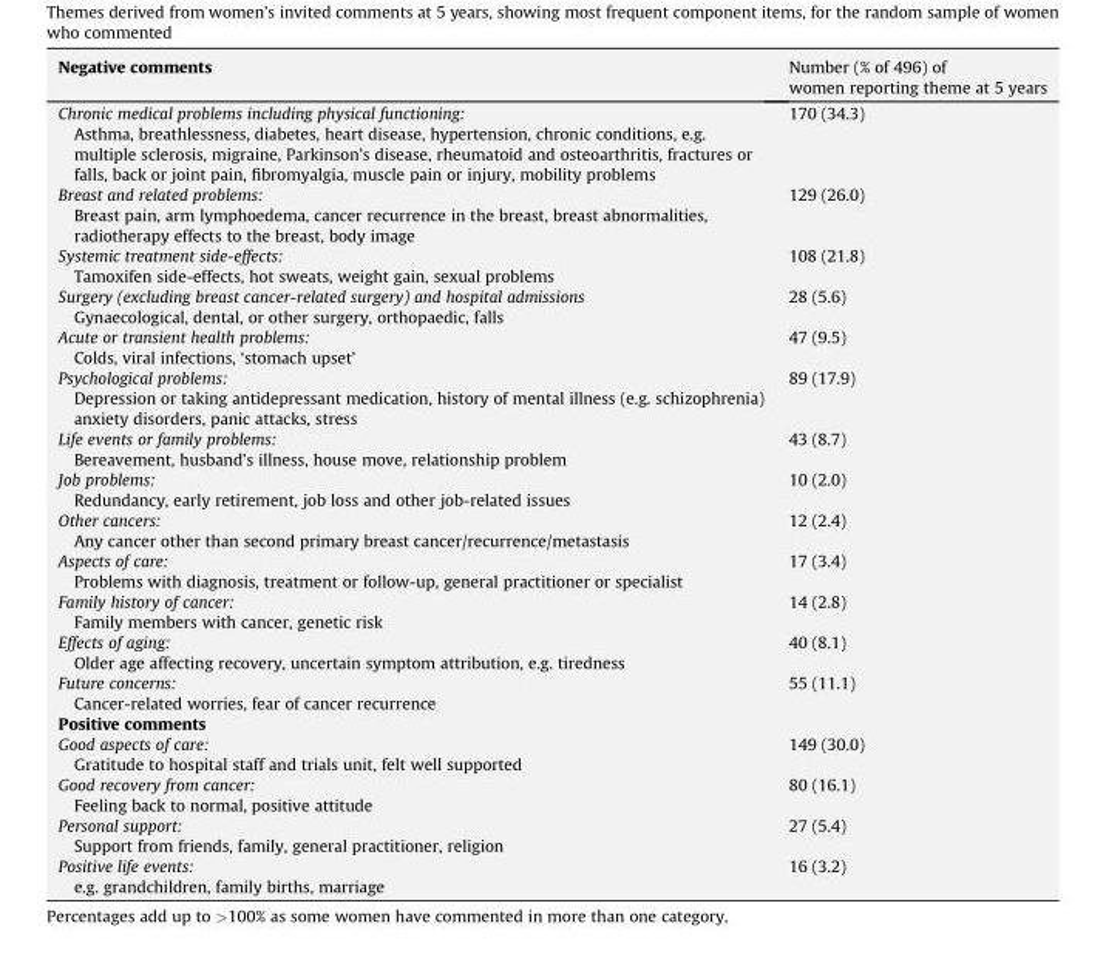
<table><thead><tr><td>Negative comments</td><td>Number (% of 496) of women reporting theme at 5 years</td></tr></thead><tbody><tr><td>Chronic medical problems including physical functioning: Asthma, breathlessness, diabetes, heart disease, hypertension, chronic conditions, e.g. multiple sclerosis, migraine, Parkinson’s disease, rheumatoid and osteoarthritis, fractures or falls, back or joint pain, fibromyalgia, muscle pain or injury, mobility problems</td><td>170 (34.3)</td></tr><tr><td>Breast and related problems: Breast pain, arm lymphoedema, cancer recurrence in the breast, breast abnormalities, radiotherapy effects to the breast, body image</td><td>129 (26.0)</td></tr><tr><td>Systemic treatment side-effects: Tamoxifen side-effects, hot sweats, weight gain, sexual problems</td><td>108 (21.8)</td></tr><tr><td>Surgery (excluding breast cancer-related surgery) and hospital admissions Gynaecological, dental, or other surgery, orthopaedic, falls</td><td>28 (5.6)</td></tr><tr><td>Acute or transient health problems: Colds, viral infections, ‘stomach upset’</td><td>47 (9.5)</td></tr><tr><td>Psychological problems: Depression or taking antidepressant medication, history of mental illness (e.g. schizophrenia) anxiety disorders, panic attacks, stress</td><td>89 (17.9)</td></tr><tr><td>Life events or family problems: Bereavement, husband’s illness, house move, relationship problem</td><td>43 (8.7)</td></tr><tr><td>Job problems: Redundancy, early retirement, job loss and other job-related issues</td><td>10 (2.0)</td></tr><tr><td>Other cancers: Any cancer other than second primary breast cancer/recurrence/metastasis</td><td>12 (2.4)</td></tr><tr><td>Aspects of care: Problems with diagnosis, treatment or follow-up, general practitioner or specialist</td><td>17 (3.4)</td></tr><tr><td>Family history of cancer: Family members with cancer, genetic risk</td><td>14 (2.8)</td></tr><tr><td>Effects of aging: Older age affecting recovery, uncertain symptom attribution, e.g. tiredness</td><td>40 (8.1)</td></tr><tr><td>Future concerns: Cancer-related worries, fear of cancer recurrence</td><td>55 (11.1)</td></tr><tr><td colspan="2">Positive comments</td></tr><tr><td>Good aspects of care: Gratitude to hospital staff and trials unit, felt well supported</td><td>149 (30.0)</td></tr><tr><td>Good recovery from cancer: Feeling back to normal, positive attitude</td><td>80 (16.1)</td></tr><tr><td>Personal support: Support from friends, family, general practitioner, religion</td><td>27 (5.4)</td></tr><tr><td>Positive life events: e.g. grandchildren, family births, marriage</td><td>16 (3.2)</td></tr></tbody></table>